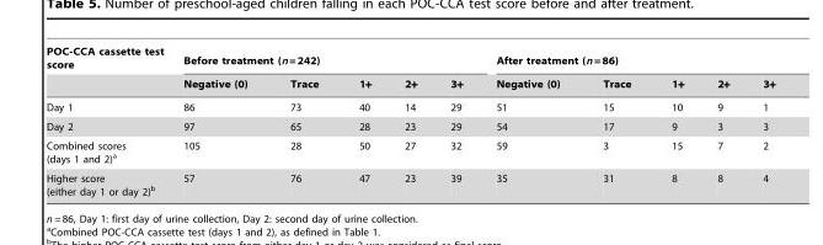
<table><thead><tr><td rowspan="2">POC-CCA cassette test score</td><td colspan="5">Before treatment (n = 242)</td><td colspan="5">After treatment (n = 86)</td></tr><tr><td>Negative (0)</td><td>Trace</td><td>1+</td><td>2+</td><td>3+</td><td>Negative (0)</td><td>Trace</td><td>1+</td><td>2+</td><td>3+</td></tr></thead><tbody><tr><td>Day 1</td><td>86</td><td>73</td><td>40</td><td>14</td><td>29</td><td>51</td><td>15</td><td>10</td><td>9</td><td>1</td></tr><tr><td>Day 2</td><td>97</td><td>65</td><td>28</td><td>23</td><td>29</td><td>54</td><td>17</td><td>9</td><td>3</td><td>3</td></tr><tr><td>Combined scores (days 1 and 2)<sup>a</sup></td><td>105</td><td>28</td><td>50</td><td>27</td><td>32</td><td>59</td><td>3</td><td>15</td><td>7</td><td>2</td></tr><tr><td>Higher score (either day 1 or day 2)<sup>b</sup></td><td>57</td><td>76</td><td>47</td><td>23</td><td>39</td><td>35</td><td>31</td><td>8</td><td>8</td><td>4</td></tr></tbody></table>